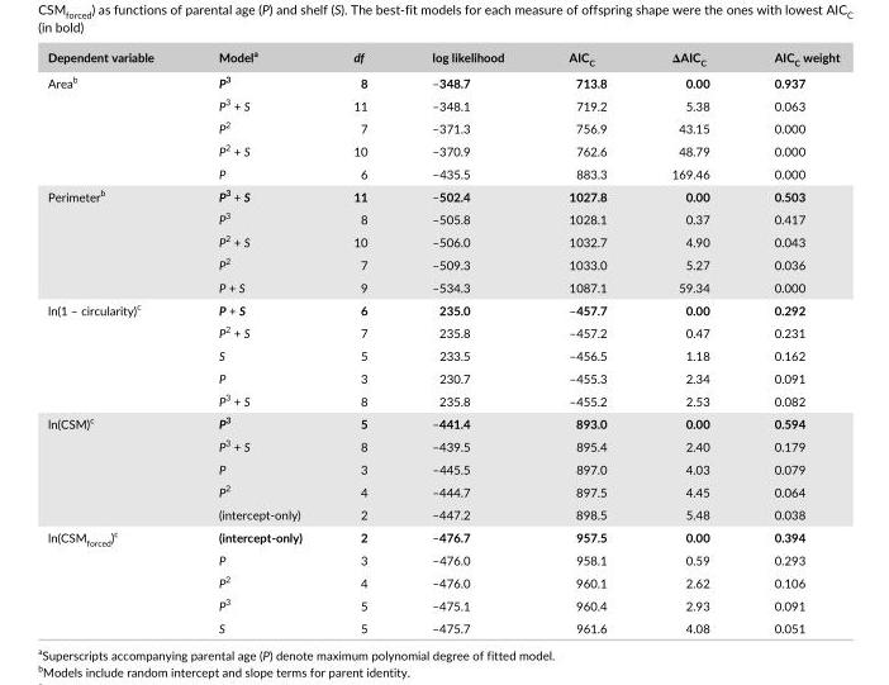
<table><thead><tr><td>Dependent variable</td><td>Model<sup>a</sup></td><td>df</td><td>log likelihood</td><td>AIC<sub>C</sub></td><td>ΔAIC<sub>C</sub></td><td>AIC<sub>C</sub> weight</td></tr></thead><tbody><tr><td rowspan="5">Area<sup>b</sup></td><td>P<sup>3</sup></td><td>8</td><td>–348.7</td><td>713.8</td><td>0.00</td><td>0.937</td></tr><tr><td>P<sup>3</sup> + S</td><td>11</td><td>–348.1</td><td>719.2</td><td>5.38</td><td>0.063</td></tr><tr><td>P<sup>2</sup></td><td>7</td><td>–371.3</td><td>756.9</td><td>43.15</td><td>0.000</td></tr><tr><td>P<sup>2</sup> + S</td><td>10</td><td>–370.9</td><td>762.6</td><td>48.79</td><td>0.000</td></tr><tr><td>P</td><td>6</td><td>–435.5</td><td>883.3</td><td>169.46</td><td>0.000</td></tr><tr><td rowspan="5">Perimeter<sup>b</sup></td><td>P<sup>3</sup> + S</td><td>11</td><td>–502.4</td><td>1027.8</td><td>0.00</td><td>0.503</td></tr><tr><td>P<sup>3</sup></td><td>8</td><td>–505.8</td><td>1028.1</td><td>0.37</td><td>0.417</td></tr><tr><td>P<sup>2</sup> + S</td><td>10</td><td>–506.0</td><td>1032.7</td><td>4.90</td><td>0.043</td></tr><tr><td>P<sup>2</sup></td><td>7</td><td>–509.3</td><td>1033.0</td><td>5.27</td><td>0.036</td></tr><tr><td>P + S</td><td>9</td><td>–534.3</td><td>1087.1</td><td>59.34</td><td>0.000</td></tr><tr><td rowspan="5">ln(1 – circularity)<sup>c</sup></td><td>P + S</td><td>6</td><td>235.0</td><td>–457.7</td><td>0.00</td><td>0.292</td></tr><tr><td>P<sup>2</sup> + S</td><td>7</td><td>235.8</td><td>–457.2</td><td>0.47</td><td>0.231</td></tr><tr><td>S</td><td>5</td><td>233.5</td><td>–456.5</td><td>1.18</td><td>0.162</td></tr><tr><td>P</td><td>3</td><td>230.7</td><td>–455.3</td><td>2.34</td><td>0.091</td></tr><tr><td>P<sup>3</sup> + S</td><td>8</td><td>235.8</td><td>–455.2</td><td>2.53</td><td>0.082</td></tr><tr><td rowspan="5">ln(CSM)<sup>c</sup></td><td>P<sup>3</sup></td><td>5</td><td>–441.4</td><td>893.0</td><td>0.00</td><td>0.594</td></tr><tr><td>P<sup>3</sup> + S</td><td>8</td><td>–439.5</td><td>895.4</td><td>2.40</td><td>0.179</td></tr><tr><td>P</td><td>3</td><td>–445.5</td><td>897.0</td><td>4.03</td><td>0.079</td></tr><tr><td>P<sup>2</sup></td><td>4</td><td>–444.7</td><td>897.5</td><td>4.45</td><td>0.064</td></tr><tr><td>(intercept- only)</td><td>2</td><td>–447.2</td><td>898.5</td><td>5.48</td><td>0.038</td></tr><tr><td rowspan="5">ln(CSM<sub>forced</sub>)<sup>c</sup></td><td>(intercept-only)</td><td>2</td><td>–476.7</td><td>957.5</td><td>0.00</td><td>0.394</td></tr><tr><td>P</td><td>3</td><td>–476.0</td><td>958.1</td><td>0.59</td><td>0.293</td></tr><tr><td>P<sup>2</sup></td><td>4</td><td>–476.0</td><td>960.1</td><td>2.62</td><td>0.106</td></tr><tr><td>P<sup>3</sup></td><td>5</td><td>–475.1</td><td>960.4</td><td>2.93</td><td>0.091</td></tr><tr><td>S</td><td>5</td><td>–475.7</td><td>961.6</td><td>4.08</td><td>0.051</td></tr></tbody></table>